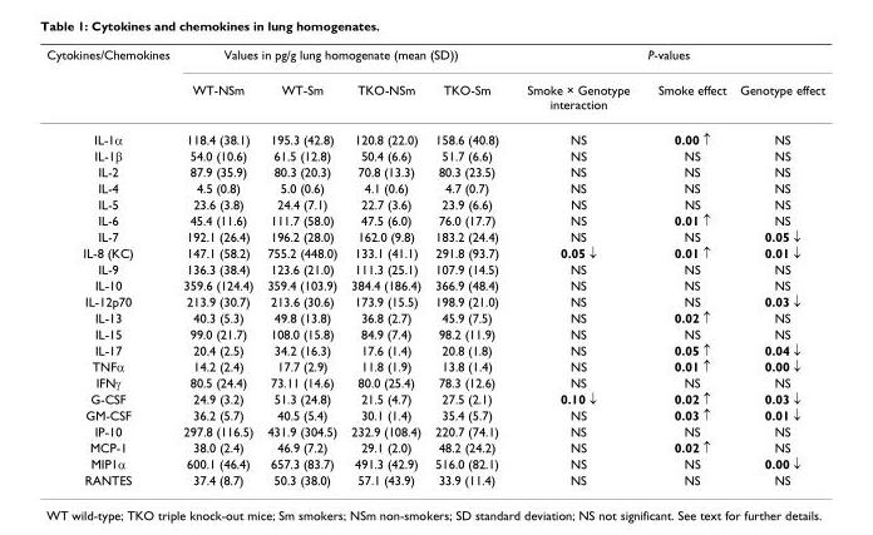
<table><thead><tr><td rowspan="2">Cytokines/Chemokines</td><td colspan="4">Values in pg/g lung homogenate (mean (SD))</td><td colspan="3">P-values</td></tr><tr><td>WT-NSm</td><td>WT-Sm</td><td>TKO-NSm</td><td>TKO-Sm</td><td>Smoke × Genotype interaction</td><td>Smoke effect</td><td>Genotype effect</td></tr></thead><tbody><tr><td>IL-1α</td><td>118.4 (38.1)</td><td>195.3 (42.8)</td><td>120.8 (22.0)</td><td>158.6 (40.8)</td><td>NS</td><td>0.00 ↑</td><td>NS</td></tr><tr><td>IL-1β</td><td>54.0 (10.6)</td><td>61.5 (12.8)</td><td>50.4 (6.6)</td><td>51.7 (6.6)</td><td>NS</td><td>NS</td><td>NS</td></tr><tr><td>IL-2</td><td>87.9 (35.9)</td><td>80.3 (20.3)</td><td>70.8 (13.3)</td><td>80.3 (23.5)</td><td>NS</td><td>NS</td><td>NS</td></tr><tr><td>IL-4</td><td>4.5 (0.8)</td><td>5.0 (0.6)</td><td>4.1 (0.6)</td><td>4.7 (0.7)</td><td>NS</td><td>NS</td><td>NS</td></tr><tr><td>IL-5</td><td>23.6 (3.8)</td><td>24.4 (7.1)</td><td>22.7 (3.6)</td><td>23.9 (6.6)</td><td>NS</td><td>NS</td><td>NS</td></tr><tr><td>IL-6</td><td>45.4 (11.6)</td><td>111.7 (58.0)</td><td>47.5 (6.0)</td><td>76.0 (17.7)</td><td>NS</td><td>0.01 ↑</td><td>NS</td></tr><tr><td>IL-7</td><td>192.1 (26.4)</td><td>196.2 (28.0)</td><td>162.0 (9.8)</td><td>183.2 (24.4)</td><td>NS</td><td>NS</td><td>0.05 ↓</td></tr><tr><td>IL-8 (KC)</td><td>147.1 (58.2)</td><td>755.2 (448.0)</td><td>133.1 (41.1)</td><td>291.8 (93.7)</td><td>0.05 ↓</td><td>0.01 ↑</td><td>0.01 ↓</td></tr><tr><td>IL-9</td><td>136.3 (38.4)</td><td>123.6 (21.0)</td><td>111.3 (25.1)</td><td>107.9 (14.5)</td><td>NS</td><td>NS</td><td>NS</td></tr><tr><td>IL-10</td><td>359.6 (124.4)</td><td>359.4 (103.9)</td><td>384.4 (186.4)</td><td>366.9 (48.4)</td><td>NS</td><td>NS</td><td>NS</td></tr><tr><td>IL-12p70</td><td>213.9 (30.7)</td><td>213.6 (30.6)</td><td>173.9 (15.5)</td><td>198.9 (21.0)</td><td>NS</td><td>NS</td><td>0.03 ↓</td></tr><tr><td>IL-13</td><td>40.3 (5.3)</td><td>49.8 (13.8)</td><td>36.8 (2.7)</td><td>45.9 (7.5)</td><td>NS</td><td>0.02 ↑</td><td>NS</td></tr><tr><td>IL-15</td><td>99.0 (21.7)</td><td>108.0 (15.8)</td><td>84.9 (7.4)</td><td>98.2 (11.9)</td><td>NS</td><td>NS</td><td>NS</td></tr><tr><td>IL-17</td><td>20.4 (2.5)</td><td>34.2 (16.3)</td><td>17.6 (1.4)</td><td>20.8 (1.8)</td><td>NS</td><td>0.05 ↑</td><td>0.04 ↓</td></tr><tr><td>TNFα</td><td>14.2 (2.4)</td><td>17.7 (2.9)</td><td>11.8 (1.9)</td><td>13.8 (1.4)</td><td>NS</td><td>0.01 ↑</td><td>0.00 ↓</td></tr><tr><td>IFNγ</td><td>80.5 (24.4)</td><td>73.11 (14.6)</td><td>80.0 (25.4)</td><td>78.3 (12.6)</td><td>NS</td><td>NS</td><td>NS</td></tr><tr><td>G-CSF</td><td>24.9 (3.2)</td><td>51.3 (24.8)</td><td>21.5 (4.7)</td><td>27.5 (2.1)</td><td>0.10 ↓</td><td>0.02 ↑</td><td>0.03 ↓</td></tr><tr><td>GM-CSF</td><td>36.2 (5.7)</td><td>40.5 (5.4)</td><td>30.1 (1.4)</td><td>35.4 (5.7)</td><td>NS</td><td>0.03 ↑</td><td>0.01 ↓</td></tr><tr><td>IP-10</td><td>297.8 (116.5)</td><td>431.9 (304.5)</td><td>232.9 (108.4)</td><td>220.7 (74.1)</td><td>NS</td><td>NS</td><td>NS</td></tr><tr><td>MCP-1</td><td>38.0 (2.4)</td><td>46.9 (7.2)</td><td>29.1 (2.0)</td><td>48.2 (24.2)</td><td>NS</td><td>0.02 ↑</td><td>NS</td></tr><tr><td>MIP1α</td><td>600.1 (46.4)</td><td>657.3 (83.7)</td><td>491.3 (42.9)</td><td>516.0 (82.1)</td><td>NS</td><td>NS</td><td>0.00 ↓</td></tr><tr><td>RANTES</td><td>37.4 (8.7)</td><td>50.3 (38.0)</td><td>57.1 (43.9)</td><td>33.9 (11.4)</td><td>NS</td><td>NS</td><td>NS</td></tr></tbody></table>